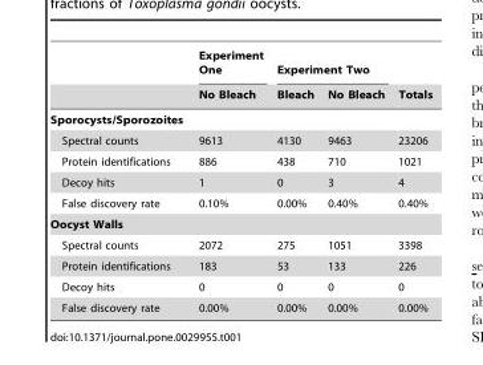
<table><thead><tr><td rowspan="2"></td><td rowspan="2">Experiment One No Bleach</td><td colspan="2">Experiment Two</td><td rowspan="2">Totals</td></tr><tr><td>Bleach</td><td>No Bleach</td></tr></thead><tbody><tr><td colspan="5">Sporocysts/Sporozoites</td></tr><tr><td>Spectral counts</td><td>9613</td><td>4130</td><td>9463</td><td>23206</td></tr><tr><td>Protein identifications</td><td>886</td><td>438</td><td>710</td><td>1021</td></tr><tr><td>Decoy hits</td><td>1</td><td>0</td><td>3</td><td>4</td></tr><tr><td>False discovery rate</td><td>0.10%</td><td>0.00%</td><td>0.40%</td><td>0.40%</td></tr><tr><td colspan="5">Oocyst Walls</td></tr><tr><td>Spectral counts</td><td>2072</td><td>275</td><td>1051</td><td>3398</td></tr><tr><td>Protein identifications</td><td>183</td><td>53</td><td>133</td><td>226</td></tr><tr><td>Decoy hits</td><td>0</td><td>0</td><td>0</td><td>0</td></tr><tr><td>False discovery rate</td><td>0.00%</td><td>0.00%</td><td>0.00%</td><td>0.00%</td></tr></tbody></table>